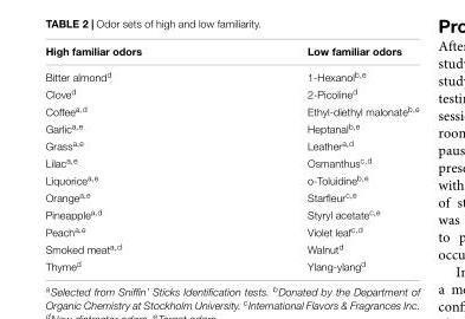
<table><thead><tr><td>High familiar odors</td><td>Low familiar odors</td></tr></thead><tbody><tr><td>Bitter almond<sup>d</sup></td><td>1-Hexanol<sup>b,e</sup></td></tr><tr><td>Clove<sup>d</sup></td><td>2-Picoline<sup>d</sup></td></tr><tr><td>Coffee<sup>a,d</sup></td><td>Ethyl-diethyl malonate<sup>b,e</sup></td></tr><tr><td>Garlic<sup>a,e</sup></td><td>Heptanal<sup>b,e</sup></td></tr><tr><td>Grass<sup>a,e</sup></td><td>Leather<sup>a,d</sup></td></tr><tr><td>Lilac<sup>a,e</sup></td><td>Osmanthus<sup>c,d</sup></td></tr><tr><td>Liquorice<sup>a,e</sup></td><td>o-Toluidine<sup>b,e</sup></td></tr><tr><td>Orange<sup>a,e</sup></td><td>Starfleur<sup>c,e</sup></td></tr><tr><td>Pineapple<sup>a,d</sup></td><td>Styryl acetate<sup>c,e</sup></td></tr><tr><td>Peach<sup>a,e</sup></td><td>Violet leaf<sup>c,d</sup></td></tr><tr><td>Smoked meat<sup>a,d</sup></td><td>Walnut<sup>d</sup></td></tr><tr><td>Thyme<sup>d</sup></td><td>Ylang-ylang<sup>d</sup></td></tr></tbody></table>